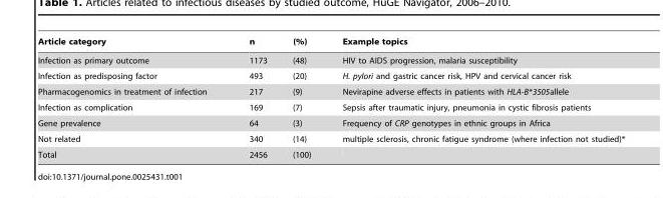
<table><thead><tr><td>Article category</td><td>n</td><td>(%)</td><td>Example topics</td></tr></thead><tbody><tr><td>Infection as primary outcome</td><td>1173</td><td>(48)</td><td>HIV to AIDS progression, malaria susceptibility</td></tr><tr><td>Infection as predisposing factor</td><td>493</td><td>(20)</td><td>H. pylori and gastric cancer risk, HPV and cervical cancer risk</td></tr><tr><td>Pharmacogenomics in treatment of infection</td><td>217</td><td>(9)</td><td>Nevirapine adverse effects in patients with HLA-B*3505allele</td></tr><tr><td>Infection as complication</td><td>169</td><td>(7)</td><td>Sepsis after traumatic injury, pneumonia in cystic fibrosis patients</td></tr><tr><td>Gene prevalence</td><td>64</td><td>(3)</td><td>Frequency of CRP genotypes in ethnic groups in Africa</td></tr><tr><td>Not related</td><td>340</td><td>(14)</td><td>multiple sclerosis, chronic fatigue syndrome (where infection not studied)*</td></tr><tr><td>Total</td><td>2456</td><td>(100)</td><td></td></tr></tbody></table>